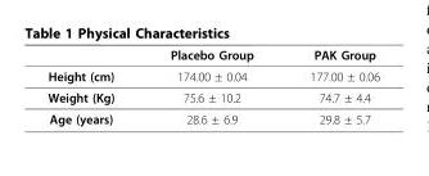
<table><thead><tr><td></td><td>Placebo Group</td><td>PAK Group</td></tr></thead><tbody><tr><td>Height (cm)</td><td>174.00 ± 0.04</td><td>177.00 ± 0.06</td></tr><tr><td>Weight (Kg)</td><td>75.6 ± 10.2</td><td>74.7 ± 4.4</td></tr><tr><td>Age (years)</td><td>28.6 ± 6.9</td><td>29.8 ± 5.7</td></tr></tbody></table>